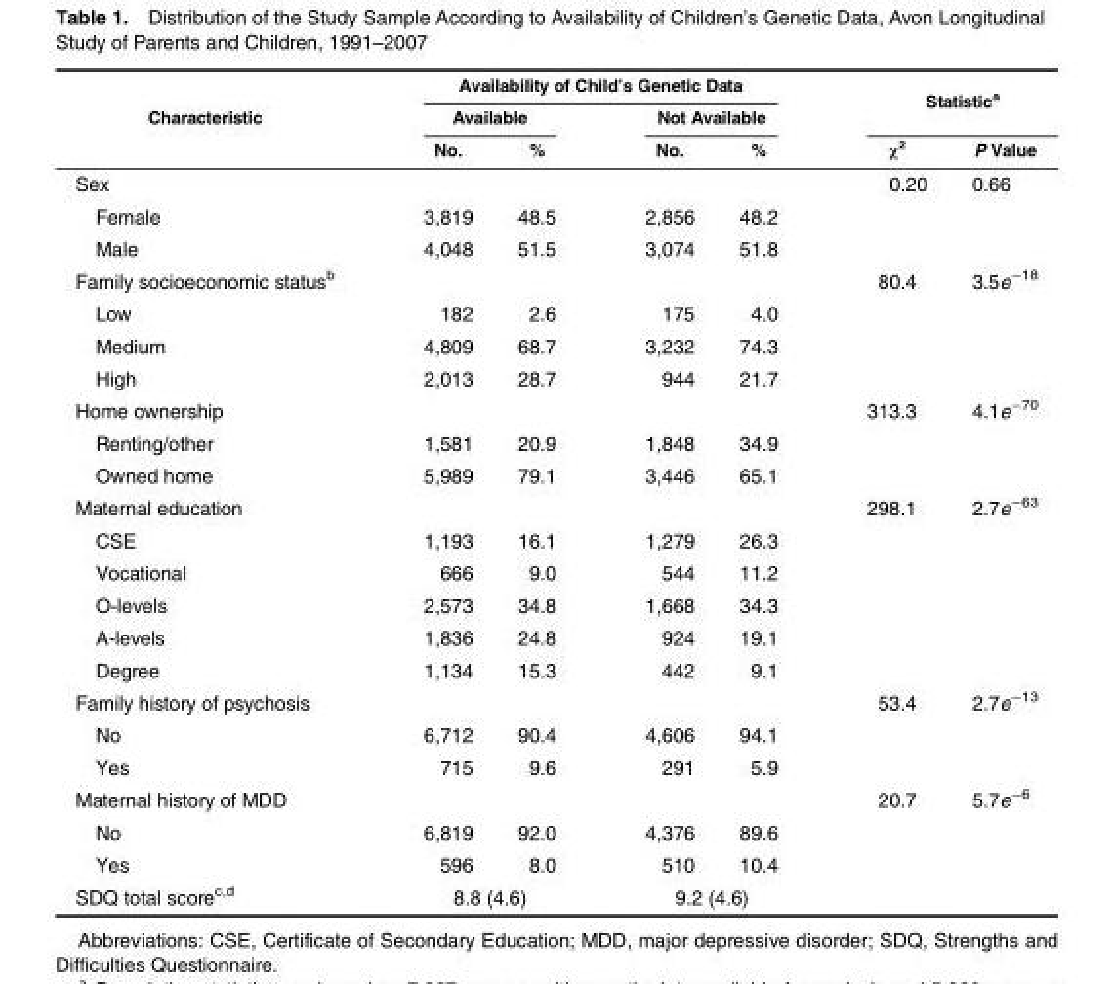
<table><thead><tr><td rowspan="3">Characteristic</td><td colspan="4">Availability of Child’s Genetic Data</td><td rowspan="2" colspan="2">Statistic<sup>a</sup></td></tr><tr><td colspan="2">Available</td><td colspan="2">Not Available</td></tr><tr><td>No.</td><td>%</td><td>No.</td><td>%</td><td>χ<sup>2</sup></td><td>P Value</td></tr></thead><tbody><tr><td>Sex</td><td></td><td></td><td></td><td></td><td>0.20</td><td>0.66</td></tr><tr><td>Female</td><td>3,819</td><td>48.5</td><td>2,856</td><td>48.2</td><td></td><td></td></tr><tr><td>Male</td><td>4,048</td><td>51.5</td><td>3,074</td><td>51.8</td><td></td><td></td></tr><tr><td>Family socioeconomic status<sup>b</sup></td><td></td><td></td><td></td><td></td><td>80.4</td><td>3.5e<sup>−18</sup></td></tr><tr><td>Low</td><td>182</td><td>2.6</td><td>175</td><td>4.0</td><td></td><td></td></tr><tr><td>Medium</td><td>4,809</td><td>68.7</td><td>3,232</td><td>74.3</td><td></td><td></td></tr><tr><td>High</td><td>2,013</td><td>28.7</td><td>944</td><td>21.7</td><td></td><td></td></tr><tr><td>Home ownership</td><td></td><td></td><td></td><td></td><td>313.3</td><td>4.1e<sup>−70</sup></td></tr><tr><td>Renting/other</td><td>1,581</td><td>20.9</td><td>1,848</td><td>34.9</td><td></td><td></td></tr><tr><td>Owned home</td><td>5,989</td><td>79.1</td><td>3,446</td><td>65.1</td><td></td><td></td></tr><tr><td>Maternal education</td><td></td><td></td><td></td><td></td><td>298.1</td><td>2.7e<sup>−63</sup></td></tr><tr><td>CSE</td><td>1,193</td><td>16.1</td><td>1,279</td><td>26.3</td><td></td><td></td></tr><tr><td>Vocational</td><td>666</td><td>9.0</td><td>544</td><td>11.2</td><td></td><td></td></tr><tr><td>O-levels</td><td>2,573</td><td>34.8</td><td>1,668</td><td>34.3</td><td></td><td></td></tr><tr><td>A-levels</td><td>1,836</td><td>24.8</td><td>924</td><td>19.1</td><td></td><td></td></tr><tr><td>Degree</td><td>1,134</td><td>15.3</td><td>442</td><td>9.1</td><td></td><td></td></tr><tr><td>Family history of psychosis</td><td></td><td></td><td></td><td></td><td>53.4</td><td>2.7e<sup>−13</sup></td></tr><tr><td>No</td><td>6,712</td><td>90.4</td><td>4,606</td><td>94.1</td><td></td><td></td></tr><tr><td>Yes</td><td>715</td><td>9.6</td><td>291</td><td>5.9</td><td></td><td></td></tr><tr><td>Maternal history of MDD</td><td></td><td></td><td></td><td></td><td>20.7</td><td>5.7e<sup>−6</sup></td></tr><tr><td>No</td><td>6,819</td><td>92.0</td><td>4,376</td><td>89.6</td><td></td><td></td></tr><tr><td>Yes</td><td>596</td><td>8.0</td><td>510</td><td>10.4</td><td></td><td></td></tr><tr><td>SDQ total score<sup>c,d</sup></td><td colspan="2">8.8 (4.6)</td><td colspan="2">9.2 (4.6)</td><td></td><td></td></tr></tbody></table>